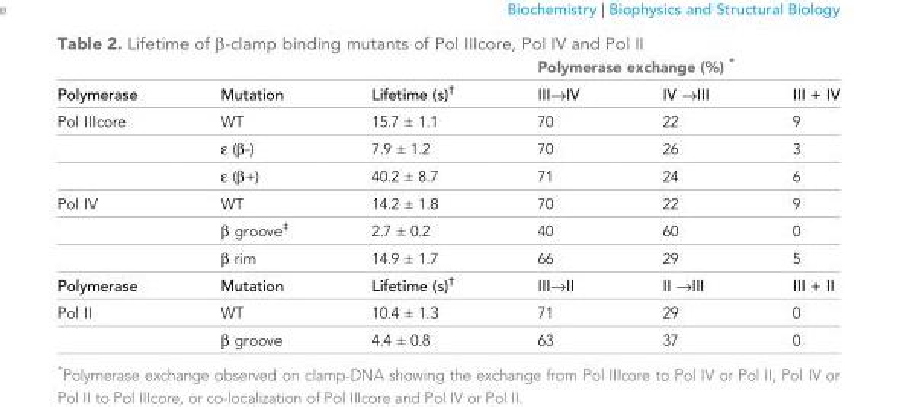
<table><thead><tr><td rowspan="2">Polymerase</td><td rowspan="2">Mutation</td><td rowspan="2">Lifetime (s)<sup>†</sup></td><td colspan="3">Polymerase exchange (%) *</td></tr><tr><td>IIIfiIV</td><td>IV fiIII</td><td>III + IV</td></tr></thead><tbody><tr><td rowspan="3">Pol IIIcore</td><td>WT</td><td>15.7 ± 1.1</td><td>70</td><td>22</td><td>9</td></tr><tr><td>ε (β-)</td><td>7.9 ± 1.2</td><td>70</td><td>26</td><td>3</td></tr><tr><td>ε (β+)</td><td>40.2 ± 8.7</td><td>71</td><td>24</td><td>6</td></tr><tr><td rowspan="3">Pol IV</td><td>WT</td><td>14.2 ± 1.8</td><td>70</td><td>22</td><td>9</td></tr><tr><td>β groove<sup>‡</sup></td><td>2.7 ± 0.2</td><td>40</td><td>60</td><td>0</td></tr><tr><td>β rim</td><td>14.9 ± 1.7</td><td>66</td><td>29</td><td>5</td></tr><tr><td>Polymerase</td><td>Mutation</td><td>Lifetime (s)<sup>†</sup></td><td>IIIfiII</td><td>II fiIII</td><td>III + II</td></tr><tr><td rowspan="2">Pol II</td><td>WT</td><td>10.4 ± 1.3</td><td>71</td><td>29</td><td>0</td></tr><tr><td>β groove</td><td>4.4 ± 0.8</td><td>63</td><td>37</td><td>0</td></tr></tbody></table>